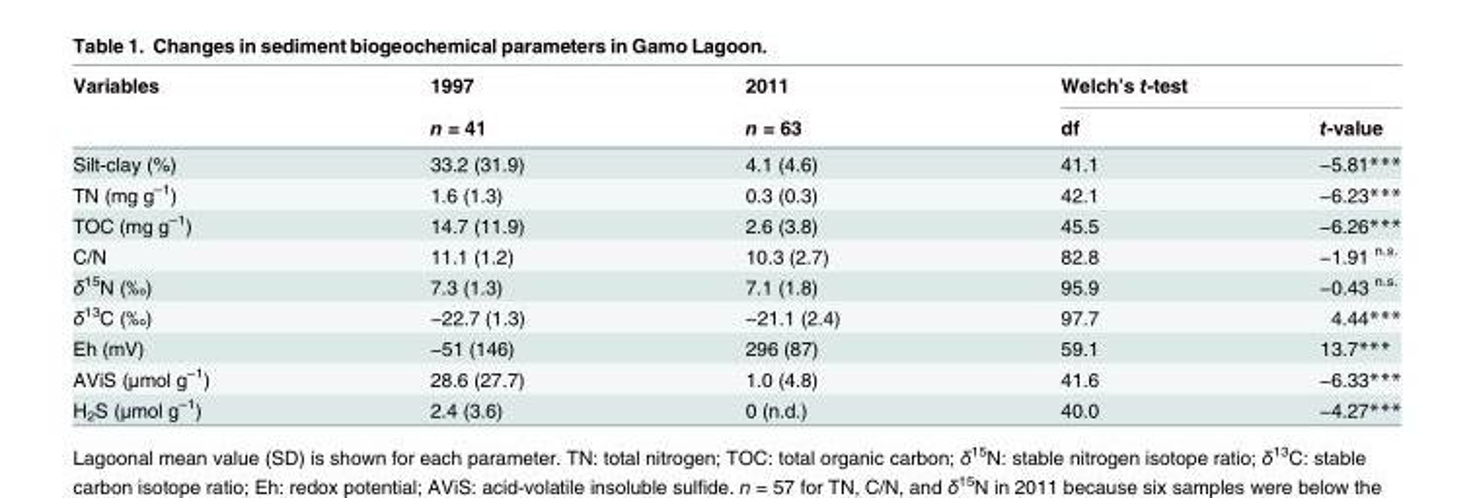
<table><thead><tr><td rowspan="2">Variables</td><td rowspan="2">1997 n = 41</td><td rowspan="2">2011 n = 63</td><td colspan="2">Welch’s t-test</td></tr><tr><td>df</td><td>t-value</td></tr></thead><tbody><tr><td>Silt-clay (%)</td><td>33.2 (31.9)</td><td>4.1 (4.6)</td><td>41.1</td><td>−5.81***</td></tr><tr><td>TN (mg g<sup>–1</sup>)</td><td>1.6 (1.3)</td><td>0.3 (0.3)</td><td>42.1</td><td>−6.23***</td></tr><tr><td>TOC (mg g<sup>–1</sup>)</td><td>14.7 (11.9)</td><td>2.6 (3.8)</td><td>45.5</td><td>−6.26***</td></tr><tr><td>C/N</td><td>11.1 (1.2)</td><td>10.3 (2.7)</td><td>82.8</td><td>−1.91 <sup>n.s.</sup></td></tr><tr><td>δ<sup>15</sup>N (‰)</td><td>7.3 (1.3)</td><td>7.1 (1.8)</td><td>95.9</td><td>−0.43 <sup>n.s.</sup></td></tr><tr><td>δ<sup>13</sup>C (‰)</td><td>−22.7 (1.3)</td><td>−21.1 (2.4)</td><td>97.7</td><td>4.44***</td></tr><tr><td>Eh (mV)</td><td>−51 (146)</td><td>296 (87)</td><td>59.1</td><td>13.7***</td></tr><tr><td>AViS (μmol g<sup>–1</sup>)</td><td>28.6 (27.7)</td><td>1.0 (4.8)</td><td>41.6</td><td>−6.33***</td></tr><tr><td>H<sub>2</sub>S (μmol g<sup>–1</sup>)</td><td>2.4 (3.6)</td><td>0 (n.d.)</td><td>40.0</td><td>−4.27***</td></tr></tbody></table>